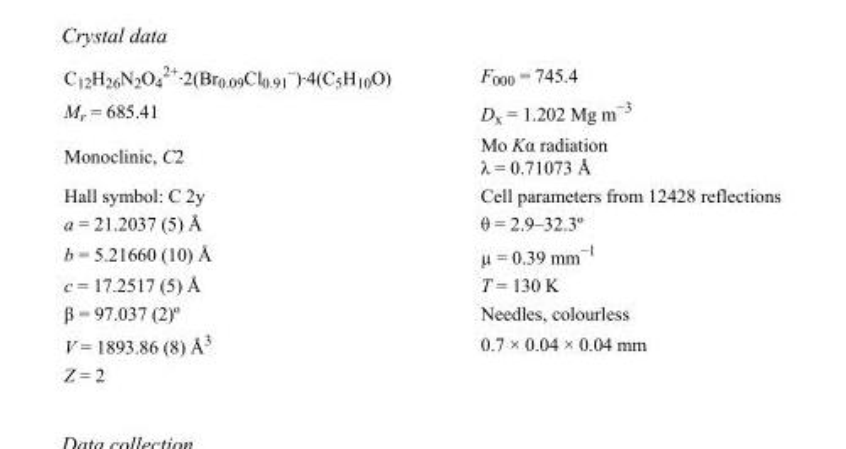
<table><tbody><tr><td>C<sub>12</sub>H<sub>26</sub>N<sub>2</sub>O<sub>4</sub> <sup>2+</sup>·2(Br<sub>0.09</sub>Cl<sub>0.91</sub> <sup>–</sup>)·4(C<sub>5</sub>H<sub>10</sub>O)</td><td>F000 = 745.4</td></tr><tr><td>M<sub>r</sub> = 685.41</td><td>D<sub>x</sub> = 1.202 Mg m<sup>−3</sup></td></tr><tr><td>Monoclinic, C2</td><td>Mo Kα radiation λ = 0.71073 Å</td></tr><tr><td>Hall symbol: C 2y</td><td>Cell parameters from 12428 reflections</td></tr><tr><td>a = 21.2037 (5) Å</td><td>θ = 2.9–32.3º</td></tr><tr><td>b = 5.21660 (10) Å</td><td>µ = 0.39 mm<sup>−1</sup></td></tr><tr><td>c = 17.2517 (5) Å</td><td>T = 130 K</td></tr><tr><td>β = 97.037 (2)º</td><td>Needles, colourless</td></tr><tr><td>V = 1893.86 (8) Å<sup>3</sup></td><td>0.7 × 0.04 × 0.04 mm</td></tr><tr><td>Z = 2</td><td></td></tr></tbody></table>